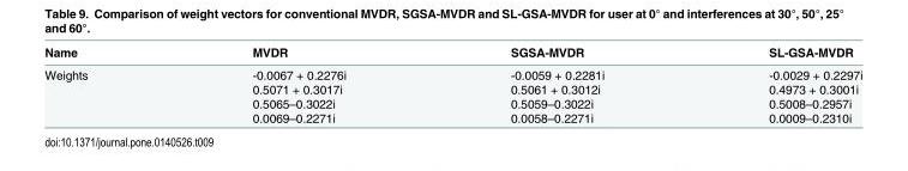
<table><thead><tr><td>Name</td><td>MVDR</td><td>SGSA-MVDR</td><td>SL-GSA-MVDR</td></tr></thead><tbody><tr><td>Weights</td><td>-0.0067 + 0.2276i 0.5071 + 0.3017i 0.5065–0.3022i 0.0069–0.2271i</td><td>-0.0059 + 0.2281i 0.5061 + 0.3012i 0.5059–0.3022i 0.0058–0.2271i</td><td>-0.0029 + 0.2297i 0.4973 + 0.3001i 0.5008–0.2957i 0.0009–0.2310i</td></tr></tbody></table>